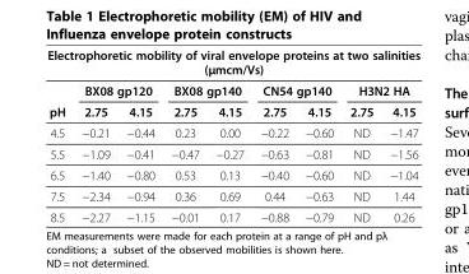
<table><thead><tr><td colspan="9">Electrophoretic mobility of viral envelope proteins at two salinities (μmcm/Vs)</td></tr><tr><td rowspan="2">pH</td><td colspan="2">BX08 gp120</td><td colspan="2">BX08 gp140</td><td colspan="2">CN54 gp140</td><td colspan="2">H3N2 HA</td></tr><tr><td>2.75</td><td>4.15</td><td>2.75</td><td>4.15</td><td>2.75</td><td>4.15</td><td>2.75</td><td>4.15</td></tr></thead><tbody><tr><td>4.5</td><td>−0.21</td><td>−0.44</td><td>0.23</td><td>0.00</td><td>−0.22</td><td>−0.60</td><td>ND</td><td>−1.47</td></tr><tr><td>5.5</td><td>−1.09</td><td>−0.41</td><td>−0.47</td><td>−0.27</td><td>−0.63</td><td>−0.81</td><td>ND</td><td>−1.56</td></tr><tr><td>6.5</td><td>−1.40</td><td>−0.80</td><td>0.53</td><td>0.13</td><td>−0.40</td><td>−0.60</td><td>ND</td><td>−1.04</td></tr><tr><td>7.5</td><td>−2.34</td><td>−0.94</td><td>0.36</td><td>0.69</td><td>0.44</td><td>−0.63</td><td>ND</td><td>1.44</td></tr><tr><td>8.5</td><td>−2.27</td><td>−1.15</td><td>−0.01</td><td>0.17</td><td>−0.88</td><td>−0.79</td><td>ND</td><td>0.26</td></tr></tbody></table>